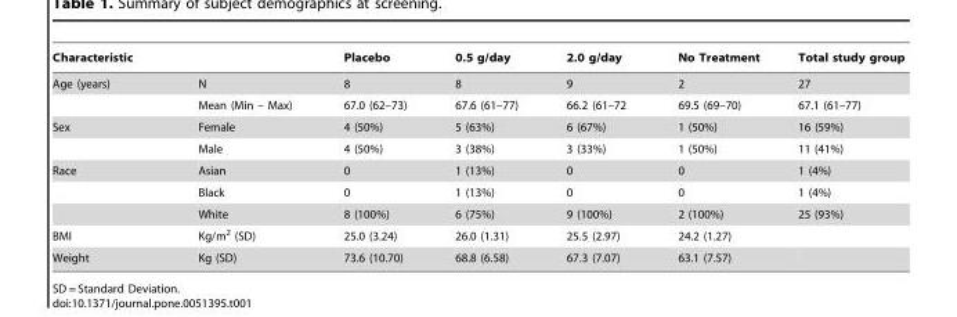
<table><thead><tr><td colspan="2">Characteristic</td><td rowspan="2">Placebo 8</td><td rowspan="2">0.5 g/day 8</td><td rowspan="2">2.0 g/day 9</td><td rowspan="2">No Treatment 2</td><td rowspan="2">Total study group 27</td></tr><tr><td>Age (years)</td><td>N</td></tr></thead><tbody><tr><td></td><td>Mean (Min – Max)</td><td>67.0 (62–73)</td><td>67.6 (61–77)</td><td>66.2 (61–72</td><td>69.5 (69–70)</td><td>67.1 (61–77)</td></tr><tr><td rowspan="2">Sex</td><td>Female</td><td>4 (50%)</td><td>5 (63%)</td><td>6 (67%)</td><td>1 (50%)</td><td>16 (59%)</td></tr><tr><td>Male</td><td>4 (50%)</td><td>3 (38%)</td><td>3 (33%)</td><td>1 (50%)</td><td>11 (41%)</td></tr><tr><td rowspan="3">Race</td><td>Asian</td><td>0</td><td>1 (13%)</td><td>0</td><td>0</td><td>1 (4%)</td></tr><tr><td>Black</td><td>0</td><td>1 (13%)</td><td>0</td><td>0</td><td>1 (4%)</td></tr><tr><td>White</td><td>8 (100%)</td><td>6 (75%)</td><td>9 (100%)</td><td>2 (100%)</td><td>25 (93%)</td></tr><tr><td>BMI</td><td>Kg/m<sup>2</sup> (SD)</td><td>25.0 (3.24)</td><td>26.0 (1.31)</td><td>25.5 (2.97)</td><td>24.2 (1.27)</td><td></td></tr><tr><td>Weight</td><td>Kg (SD)</td><td>73.6 (10.70)</td><td>68.8 (6.58)</td><td>67.3 (7.07)</td><td>63.1 (7.57)</td><td></td></tr></tbody></table>